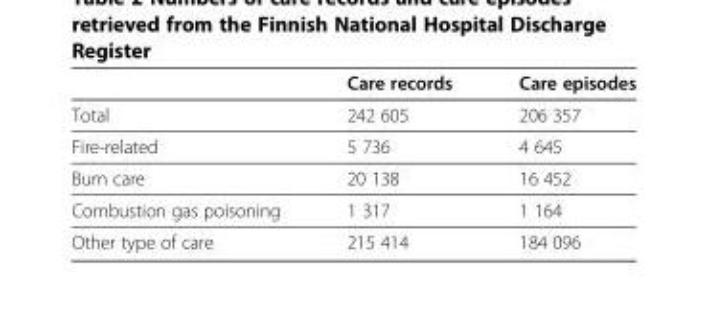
<table><thead><tr><td></td><td>Care records</td><td>Care episodes</td></tr></thead><tbody><tr><td>Total</td><td>242 605</td><td>206 357</td></tr><tr><td>Fire-related</td><td>5 736</td><td>4 645</td></tr><tr><td>Burn care</td><td>20 138</td><td>16 452</td></tr><tr><td>Combustion gas poisoning</td><td>1 317</td><td>1 164</td></tr><tr><td>Other type of care</td><td>215 414</td><td>184 096</td></tr></tbody></table>